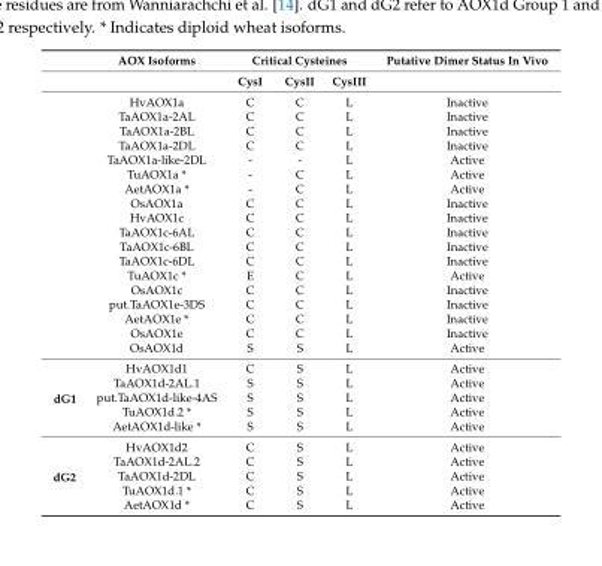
<table><thead><tr><td rowspan="2"></td><td rowspan="2">AOX Isoforms</td><td colspan="3">Critical Cysteines</td><td rowspan="2">Putative Dimer Status In Vivo</td></tr><tr><td>CysI</td><td>CysII</td><td>CysIII</td></tr></thead><tbody><tr><td rowspan="18"></td><td>HvAOX1a</td><td>C</td><td>C</td><td>L</td><td>Inactive</td></tr><tr><td>TaAOX1a-2AL</td><td>C</td><td>C</td><td>L</td><td>Inactive</td></tr><tr><td>TaAOX1a-2BL</td><td>C</td><td>C</td><td>L</td><td>Inactive</td></tr><tr><td>TaAOX1a-2DL</td><td>C</td><td>C</td><td>L</td><td>Inactive</td></tr><tr><td>TaAOX1a-like-2DL</td><td>-</td><td>-</td><td>L</td><td>Active</td></tr><tr><td>TuAOX1a *</td><td>-</td><td>C</td><td>L</td><td>Active</td></tr><tr><td>AetAOX1a *</td><td>-</td><td>C</td><td>L</td><td>Active</td></tr><tr><td>OsAOX1a</td><td>C</td><td>C</td><td>L</td><td>Inactive</td></tr><tr><td>HvAOX1c</td><td>C</td><td>C</td><td>L</td><td>Inactive</td></tr><tr><td>TaAOX1c-6AL</td><td>C</td><td>C</td><td>L</td><td>Inactive</td></tr><tr><td>TaAOX1c-6BL</td><td>C</td><td>C</td><td>L</td><td>Inactive</td></tr><tr><td>TaAOX1c-6DL</td><td>C</td><td>C</td><td>L</td><td>Inactive</td></tr><tr><td>TuAOX1c *</td><td>E</td><td>C</td><td>L</td><td>Active</td></tr><tr><td>OsAOX1c</td><td>C</td><td>C</td><td>L</td><td>Inactive</td></tr><tr><td>put.TaAOX1e-3DS</td><td>C</td><td>C</td><td>L</td><td>Inactive</td></tr><tr><td>AetAOX1e *</td><td>C</td><td>C</td><td>L</td><td>Inactive</td></tr><tr><td>OsAOX1e</td><td>C</td><td>C</td><td>L</td><td>Inactive</td></tr><tr><td>OsAOX1d</td><td>S</td><td>S</td><td>L</td><td>Active</td></tr><tr><td rowspan="5">dG1</td><td>HvAOX1d1</td><td>C</td><td>S</td><td>L</td><td>Active</td></tr><tr><td>TaAOX1d-2AL.1</td><td>S</td><td>S</td><td>L</td><td>Active</td></tr><tr><td>put.TaAOX1d-like-4AS</td><td>S</td><td>S</td><td>L</td><td>Active</td></tr><tr><td>TuAOX1d.2 *</td><td>S</td><td>S</td><td>L</td><td>Active</td></tr><tr><td>AetAOX1d-like *</td><td>S</td><td>S</td><td>L</td><td>Active</td></tr><tr><td rowspan="5">dG2</td><td>HvAOX1d2</td><td>C</td><td>S</td><td>L</td><td>Active</td></tr><tr><td>TaAOX1d-2AL.2</td><td>C</td><td>S</td><td>L</td><td>Active</td></tr><tr><td>TaAOX1d-2DL</td><td>C</td><td>S</td><td>L</td><td>Active</td></tr><tr><td>TuAOX1d.1 *</td><td>C</td><td>S</td><td>L</td><td>Active</td></tr><tr><td>AetAOX1d *</td><td>C</td><td>S</td><td>L</td><td>Active</td></tr></tbody></table>